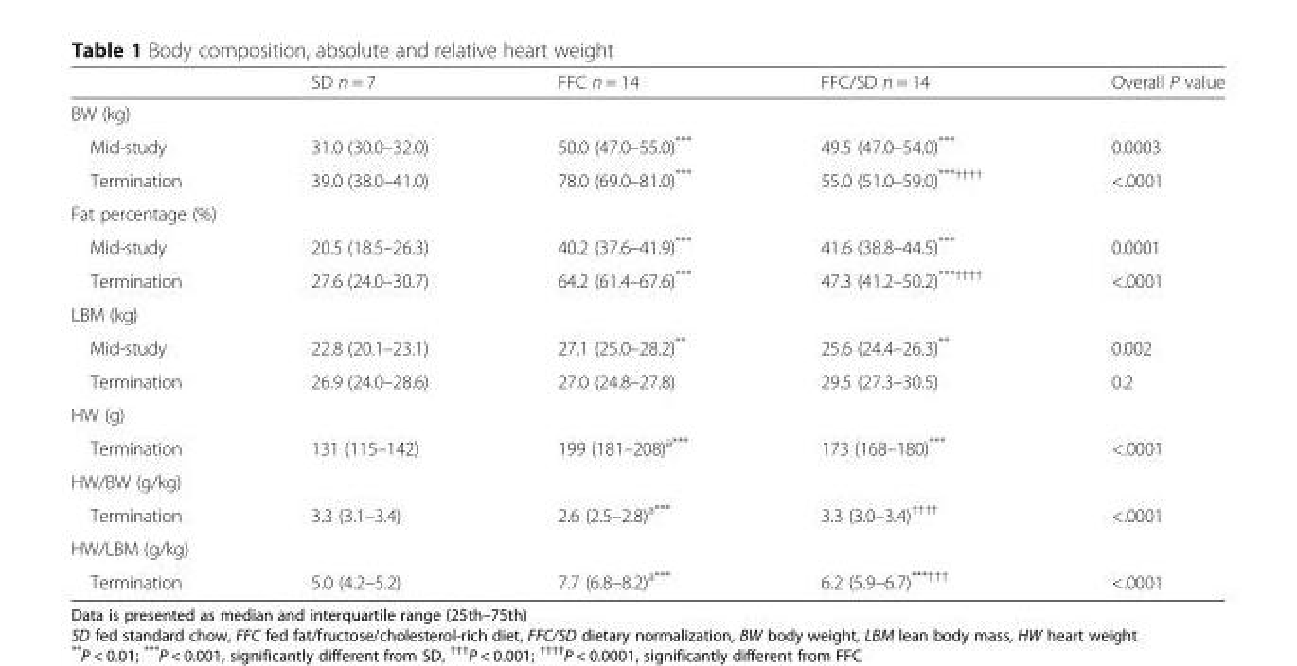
<table><thead><tr><td></td><td>SD n = 7</td><td>FFC n = 14</td><td>FFC/SD n = 14</td><td>Overall P value</td></tr></thead><tbody><tr><td colspan="5">BW (kg)</td></tr><tr><td>Mid-study</td><td>31.0 (30.0–32.0)</td><td>50.0 (47.0–55.0)***</td><td>49.5 (47.0–54.0)***</td><td>0.0003</td></tr><tr><td>Termination</td><td>39.0 (38.0–41.0)</td><td>78.0 (69.0–81.0)***</td><td>55.0 (51.0–59.0)<sup>***††††</sup></td><td>&lt;.0001</td></tr><tr><td colspan="5">Fat percentage (%)</td></tr><tr><td>Mid-study</td><td>20.5 (18.5–26.3)</td><td>40.2 (37.6–41.9)***</td><td>41.6 (38.8–44.5)***</td><td>0.0001</td></tr><tr><td>Termination</td><td>27.6 (24.0–30.7)</td><td>64.2 (61.4–67.6)***</td><td>47.3 (41.2–50.2)<sup>***††††</sup></td><td>&lt;.0001</td></tr><tr><td colspan="5">LBM (kg)</td></tr><tr><td>Mid-study</td><td>22.8 (20.1–23.1)</td><td>27.1 (25.0–28.2)**</td><td>25.6 (24.4–26.3)**</td><td>0.002</td></tr><tr><td>Termination</td><td>26.9 (24.0–28.6)</td><td>27.0 (24.8–27.8)</td><td>29.5 (27.3–30.5)</td><td>0.2</td></tr><tr><td colspan="5">HW (g)</td></tr><tr><td>Termination</td><td>131 (115–142)</td><td>199 (181–208)<sup>a***</sup></td><td>173 (168–180)***</td><td>&lt;.0001</td></tr><tr><td colspan="5">HW/BW (g/kg)</td></tr><tr><td>Termination</td><td>3.3 (3.1–3.4)</td><td>2.6 (2.5–2.8)<sup>a***</sup></td><td>3.3 (3.0–3.4)<sup>††††</sup></td><td>&lt;.0001</td></tr><tr><td colspan="5">HW/LBM (g/kg)</td></tr><tr><td>Termination</td><td>5.0 (4.2–5.2)</td><td>7.7 (6.8–8.2)<sup>a***</sup></td><td>6.2 (5.9–6.7)<sup>***†††</sup></td><td>&lt;.0001</td></tr></tbody></table>